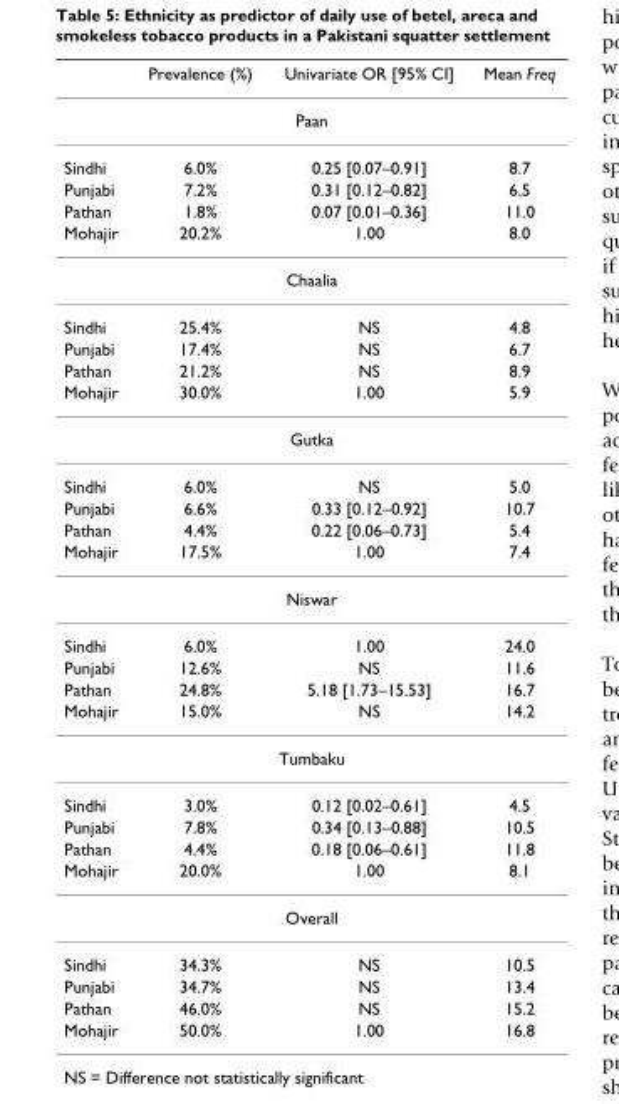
<table><thead><tr><td></td><td>Prevalence (%)</td><td>Univariate OR [95% CI]</td><td>Mean Freq</td></tr></thead><tbody><tr><td colspan="4">Paan</td></tr><tr><td>Sindhi</td><td>6.0%</td><td>0.25 [0.07–0.91]</td><td>8.7</td></tr><tr><td>Punjabi</td><td>7.2%</td><td>0.31 [0.12–0.82]</td><td>6.5</td></tr><tr><td>Pathan</td><td>1.8%</td><td>0.07 [0.01–0.36]</td><td>11.0</td></tr><tr><td>Mohajir</td><td>20.2%</td><td>1.00</td><td>8.0</td></tr><tr><td colspan="4">Chaalia</td></tr><tr><td>Sindhi</td><td>25.4%</td><td>NS</td><td>4.8</td></tr><tr><td>Punjabi</td><td>17.4%</td><td>NS</td><td>6.7</td></tr><tr><td>Pathan</td><td>21.2%</td><td>NS</td><td>8.9</td></tr><tr><td>Mohajir</td><td>30.0%</td><td>1.00</td><td>5.9</td></tr><tr><td colspan="4">Gutka</td></tr><tr><td>Sindhi</td><td>6.0%</td><td>NS</td><td>5.0</td></tr><tr><td>Punjabi</td><td>6.6%</td><td>0.33 [0.12–0.92]</td><td>10.7</td></tr><tr><td>Pathan</td><td>4.4%</td><td>0.22 [0.06–0.73]</td><td>5.4</td></tr><tr><td>Mohajir</td><td>17.5%</td><td>1.00</td><td>7.4</td></tr><tr><td colspan="4">Niswar</td></tr><tr><td>Sindhi</td><td>6.0%</td><td>1.00</td><td>24.0</td></tr><tr><td>Punjabi</td><td>12.6%</td><td>NS</td><td>11.6</td></tr><tr><td>Pathan</td><td>24.8%</td><td>5.18 [1.73–15.53]</td><td>16.7</td></tr><tr><td>Mohajir</td><td>15.0%</td><td>NS</td><td>14.2</td></tr><tr><td colspan="4">Tumbaku</td></tr><tr><td>Sindhi</td><td>3.0%</td><td>0.12 [0.02–0.61]</td><td>4.5</td></tr><tr><td>Punjabi</td><td>7.8%</td><td>0.34 [0.13–0.88]</td><td>10.5</td></tr><tr><td>Pathan</td><td>4.4%</td><td>0.18 [0.06–0.61]</td><td>11.8</td></tr><tr><td>Mohajir</td><td>20.0%</td><td>1.00</td><td>8.1</td></tr><tr><td colspan="4">Overall</td></tr><tr><td>Sindhi</td><td>34.3%</td><td>NS</td><td>10.5</td></tr><tr><td>Punjabi</td><td>34.7%</td><td>NS</td><td>13.4</td></tr><tr><td>Pathan</td><td>46.0%</td><td>NS</td><td>15.2</td></tr><tr><td>Mohajir</td><td>50.0%</td><td>1.00</td><td>16.8</td></tr></tbody></table>